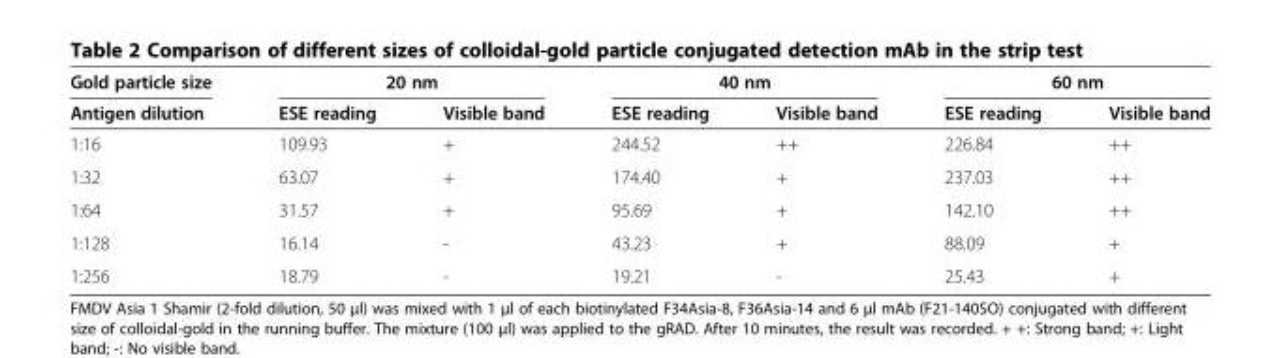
<table><thead><tr><td rowspan="2">Gold particle size Antigen dilution</td><td colspan="2">20 nm</td><td colspan="2">40 nm</td><td colspan="2">60 nm</td></tr><tr><td>ESE reading</td><td>Visible band</td><td>ESE reading</td><td>Visible band</td><td>ESE reading</td><td>Visible band</td></tr></thead><tbody><tr><td>1:16</td><td>109.93</td><td>+</td><td>244.52</td><td>++</td><td>226.84</td><td>++</td></tr><tr><td>1:32</td><td>63.07</td><td>+</td><td>174.40</td><td>+</td><td>237.03</td><td>++</td></tr><tr><td>1:64</td><td>31.57</td><td>+</td><td>95.69</td><td>+</td><td>142.10</td><td>++</td></tr><tr><td>1:128</td><td>16.14</td><td>-</td><td>43.23</td><td>+</td><td>88.09</td><td>+</td></tr><tr><td>1:256</td><td>18.79</td><td>-</td><td>19.21</td><td>-</td><td>25.43</td><td>+</td></tr></tbody></table>